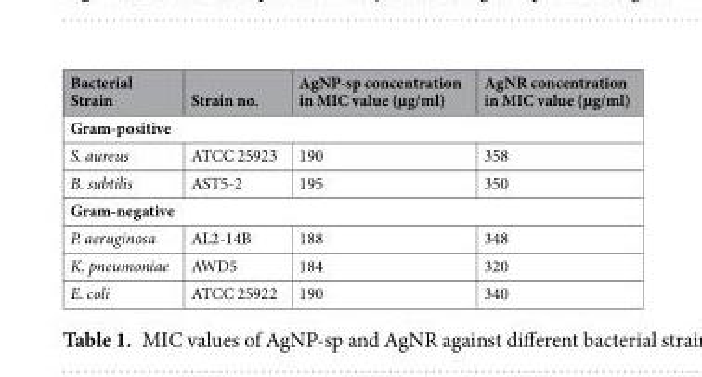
<table><thead><tr><td>Bacterial Strain</td><td>Strain no.</td><td>AgNP-sp concentration in MIC value (µg/ml)</td><td>AgNR concentration in MIC value (µg/ml)</td></tr></thead><tbody><tr><td colspan="4">Gram-positive</td></tr><tr><td>S. aureus</td><td>ATCC 25923</td><td>190</td><td>358</td></tr><tr><td>B. subtilis</td><td>AST5-2</td><td>195</td><td>350</td></tr><tr><td colspan="4">Gram-negative</td></tr><tr><td>P. aeruginosa</td><td>AL2-14B</td><td>188</td><td>348</td></tr><tr><td>K. pneumoniae</td><td>AWD5</td><td>184</td><td>320</td></tr><tr><td>E. coli</td><td>ATCC 25922</td><td>190</td><td>340</td></tr></tbody></table>